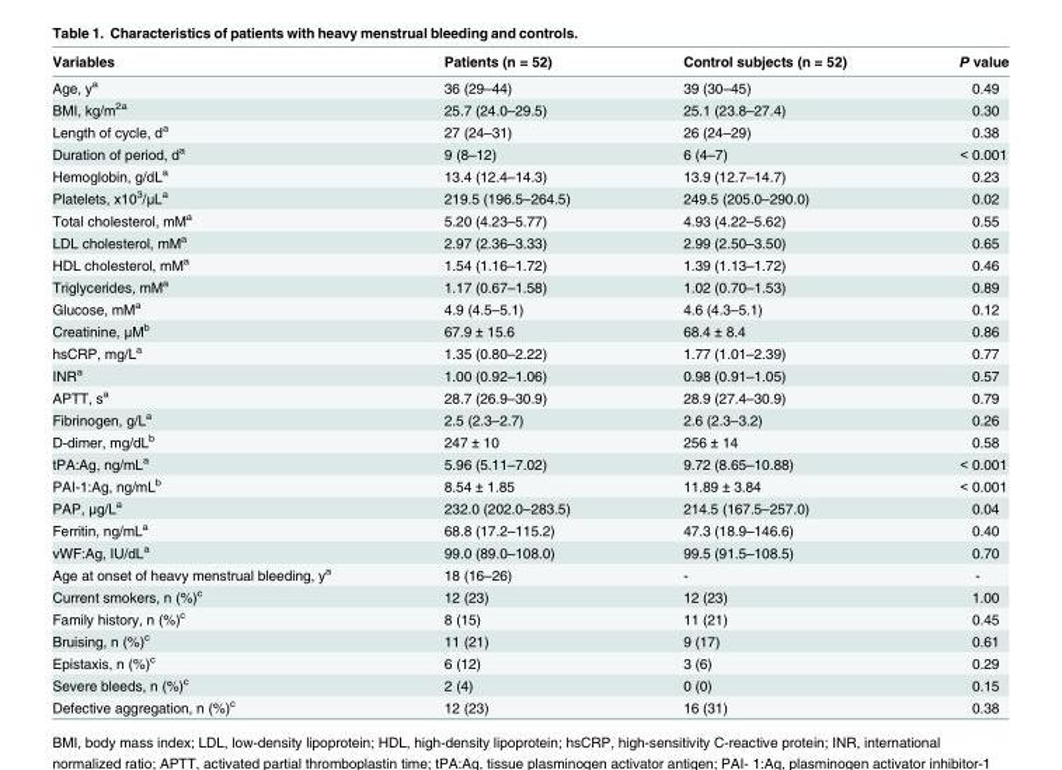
<table><thead><tr><td>Variables</td><td>Patients (n = 52)</td><td>Control subjects (n = 52)</td><td>P value</td></tr></thead><tbody><tr><td>Age, y<sup>a</sup></td><td>36 (29–44)</td><td>39 (30–45)</td><td>0.49</td></tr><tr><td>BMI, kg/m<sup>2a</sup></td><td>25.7 (24.0–29.5)</td><td>25.1 (23.8–27.4)</td><td>0.30</td></tr><tr><td>Length of cycle, d<sup>a</sup></td><td>27 (24–31)</td><td>26 (24–29)</td><td>0.38</td></tr><tr><td>Duration of period, d<sup>a</sup></td><td>9 (8–12)</td><td>6 (4–7)</td><td>&lt; 0.001</td></tr><tr><td>Hemoglobin, g/dL<sup>a</sup></td><td>13.4 (12.4–14.3)</td><td>13.9 (12.7–14.7)</td><td>0.23</td></tr><tr><td>Platelets, x10<sup>3</sup>/μL<sup>a</sup></td><td>219.5 (196.5–264.5)</td><td>249.5 (205.0–290.0)</td><td>0.02</td></tr><tr><td>Total cholesterol, mM<sup>a</sup></td><td>5.20 (4.23–5.77)</td><td>4.93 (4.22–5.62)</td><td>0.55</td></tr><tr><td>LDL cholesterol, mM<sup>a</sup></td><td>2.97 (2.36–3.33)</td><td>2.99 (2.50–3.50)</td><td>0.65</td></tr><tr><td>HDL cholesterol, mM<sup>a</sup></td><td>1.54 (1.16–1.72)</td><td>1.39 (1.13–1.72)</td><td>0.46</td></tr><tr><td>Triglycerides, mM<sup>a</sup></td><td>1.17 (0.67–1.58)</td><td>1.02 (0.70–1.53)</td><td>0.89</td></tr><tr><td>Glucose, mM<sup>a</sup></td><td>4.9 (4.5–5.1)</td><td>4.6 (4.3–5.1)</td><td>0.12</td></tr><tr><td>Creatinine, μM<sup>b</sup></td><td>67.9 ± 15.6</td><td>68.4 ± 8.4</td><td>0.86</td></tr><tr><td>hsCRP, mg/L<sup>a</sup></td><td>1.35 (0.80–2.22)</td><td>1.77 (1.01–2.39)</td><td>0.77</td></tr><tr><td>INR<sup>a</sup></td><td>1.00 (0.92–1.06)</td><td>0.98 (0.91–1.05)</td><td>0.57</td></tr><tr><td>APTT, s<sup>a</sup></td><td>28.7 (26.9–30.9)</td><td>28.9 (27.4–30.9)</td><td>0.79</td></tr><tr><td>Fibrinogen, g/L<sup>a</sup></td><td>2.5 (2.3–2.7)</td><td>2.6 (2.3–3.2)</td><td>0.26</td></tr><tr><td>D-dimer, mg/dL<sup>b</sup></td><td>247 ± 10</td><td>256 ± 14</td><td>0.58</td></tr><tr><td>tPA:Ag, ng/mL<sup>a</sup></td><td>5.96 (5.11–7.02)</td><td>9.72 (8.65–10.88)</td><td>&lt; 0.001</td></tr><tr><td>PAI-1:Ag, ng/mL<sup>b</sup></td><td>8.54 ± 1.85</td><td>11.89 ± 3.84</td><td>&lt; 0.001</td></tr><tr><td>PAP, μg/L<sup>a</sup></td><td>232.0 (202.0–283.5)</td><td>214.5 (167.5–257.0)</td><td>0.04</td></tr><tr><td>Ferritin, ng/mL<sup>a</sup></td><td>68.8 (17.2–115.2)</td><td>47.3 (18.9–146.6)</td><td>0.40</td></tr><tr><td>vWF:Ag, IU/dL<sup>a</sup></td><td>99.0 (89.0–108.0)</td><td>99.5 (91.5–108.5)</td><td>0.70</td></tr><tr><td>Age at onset of heavy menstrual bleeding, y<sup>a</sup></td><td>18 (16–26)</td><td>-</td><td>-</td></tr><tr><td>Current smokers, n (%)<sup>c</sup></td><td>12 (23)</td><td>12 (23)</td><td>1.00</td></tr><tr><td>Family history, n (%)<sup>c</sup></td><td>8 (15)</td><td>11 (21)</td><td>0.45</td></tr><tr><td>Bruising, n (%)<sup>c</sup></td><td>11 (21)</td><td>9 (17)</td><td>0.61</td></tr><tr><td>Epistaxis, n (%)<sup>c</sup></td><td>6 (12)</td><td>3 (6)</td><td>0.29</td></tr><tr><td>Severe bleeds, n (%)<sup>c</sup></td><td>2 (4)</td><td>0 (0)</td><td>0.15</td></tr><tr><td>Defective aggregation, n (%)<sup>c</sup></td><td>12 (23)</td><td>16 (31)</td><td>0.38</td></tr></tbody></table>